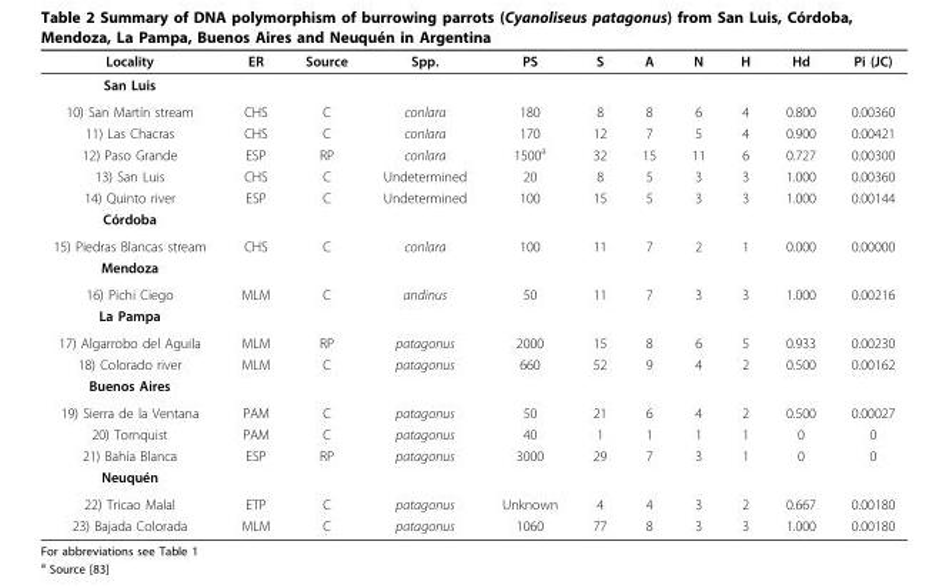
<table><thead><tr><td>Locality</td><td>ER</td><td>Source</td><td>Spp.</td><td>PS</td><td>S</td><td>A</td><td>N</td><td>H</td><td>Hd</td><td>Pi (JC)</td></tr></thead><tbody><tr><td colspan="11">San Luis</td></tr><tr><td>10) San Martín stream</td><td>CHS</td><td>C</td><td>conlara</td><td>180</td><td>8</td><td>8</td><td>6</td><td>4</td><td>0.800</td><td>0.00360</td></tr><tr><td>11) Las Chacras</td><td>CHS</td><td>C</td><td>conlara</td><td>170</td><td>12</td><td>7</td><td>5</td><td>4</td><td>0.900</td><td>0.00421</td></tr><tr><td>12) Paso Grande</td><td>ESP</td><td>RP</td><td>conlara</td><td>1500<sup>a</sup></td><td>32</td><td>15</td><td>11</td><td>6</td><td>0.727</td><td>0.00300</td></tr><tr><td>13) San Luis</td><td>CHS</td><td>C</td><td>Undetermined</td><td>20</td><td>8</td><td>5</td><td>3</td><td>3</td><td>1.000</td><td>0.00360</td></tr><tr><td>14) Quinto river</td><td>ESP</td><td>C</td><td>Undetermined</td><td>100</td><td>15</td><td>5</td><td>3</td><td>3</td><td>1.000</td><td>0.00144</td></tr><tr><td colspan="11">Córdoba</td></tr><tr><td>15) Piedras Blancas stream</td><td>CHS</td><td>C</td><td>conlara</td><td>100</td><td>11</td><td>7</td><td>2</td><td>1</td><td>0.000</td><td>0.00000</td></tr><tr><td colspan="11">Mendoza</td></tr><tr><td>16) Pichi Ciego</td><td>MLM</td><td>C</td><td>andinus</td><td>50</td><td>11</td><td>7</td><td>3</td><td>3</td><td>1.000</td><td>0.00216</td></tr><tr><td colspan="11">La Pampa</td></tr><tr><td>17) Algarrobo del Aguila</td><td>MLM</td><td>RP</td><td>patagonus</td><td>2000</td><td>15</td><td>8</td><td>6</td><td>5</td><td>0.933</td><td>0.00230</td></tr><tr><td>18) Colorado river</td><td>MLM</td><td>C</td><td>patagonus</td><td>660</td><td>52</td><td>9</td><td>4</td><td>2</td><td>0.500</td><td>0.00162</td></tr><tr><td colspan="11">Buenos Aires</td></tr><tr><td>19) Sierra de la Ventana</td><td>PAM</td><td>C</td><td>patagonus</td><td>50</td><td>21</td><td>6</td><td>4</td><td>2</td><td>0.500</td><td>0.00027</td></tr><tr><td>20) Tornquist</td><td>PAM</td><td>C</td><td>patagonus</td><td>40</td><td>1</td><td>1</td><td>1</td><td>1</td><td>0</td><td>0</td></tr><tr><td>21) Bahía Blanca</td><td>ESP</td><td>RP</td><td>patagonus</td><td>3000</td><td>29</td><td>7</td><td>3</td><td>1</td><td>0</td><td>0</td></tr><tr><td colspan="11">Neuquén</td></tr><tr><td>22) Tricao Malal</td><td>ETP</td><td>C</td><td>patagonus</td><td>Unknown</td><td>4</td><td>4</td><td>3</td><td>2</td><td>0.667</td><td>0.00180</td></tr><tr><td>23) Bajada Colorada</td><td>MLM</td><td>C</td><td>patagonus</td><td>1060</td><td>77</td><td>8</td><td>3</td><td>3</td><td>1.000</td><td>0.00180</td></tr></tbody></table>